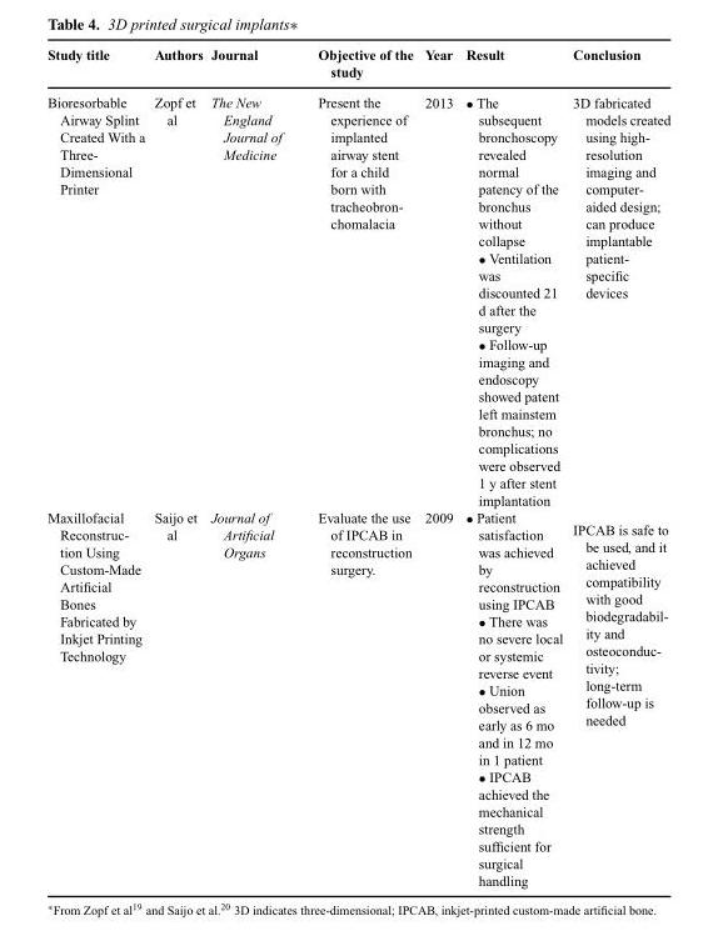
<table><thead><tr><td>Study title</td><td>Authors</td><td>Journal</td><td>Objective of the study</td><td>Year</td><td>Result</td><td>Conclusion</td></tr></thead><tbody><tr><td>Bioresorbable Airway Splint Created With a Three- Dimensional Printer</td><td>Zopf et al</td><td>The New England Journal of Medicine</td><td>Present the experience of implanted airway stent for a child born with tracheobron- chomalacia</td><td>2013</td><td>• The subsequent bronchoscopy revealed normal patency of the bronchus without collapse • Ventilation was discounted 21 d after the surgery • Follow-up imaging and endoscopy showed patent left mainstem bronchus; no complications were observed 1 y after stent implantation</td><td>3D fabricated models created using high- resolution imaging and computer- aided design; can produce implantable patient- specific devices</td></tr><tr><td>Maxillofacial Reconstruc- tion Using Custom-Made Artificial Bones Fabricated by Inkjet Printing Technology</td><td>Saijo et al</td><td>Journal of Artificial Organs</td><td>Evaluate the use of IPCAB in reconstruction surgery.</td><td>2009</td><td>• Patient satisfaction was achieved by reconstruction using IPCAB • There was no severe local or systemic reverse event • Union observed as early as 6 mo and in 12 mo in 1 patient • IPCAB achieved the mechanical strength sufficient for surgical handling</td><td>IPCAB is safe to be used, and it achieved compatibility with good biodegradabil- ity and osteoconduc- tivity; long-term follow-up is needed</td></tr></tbody></table>